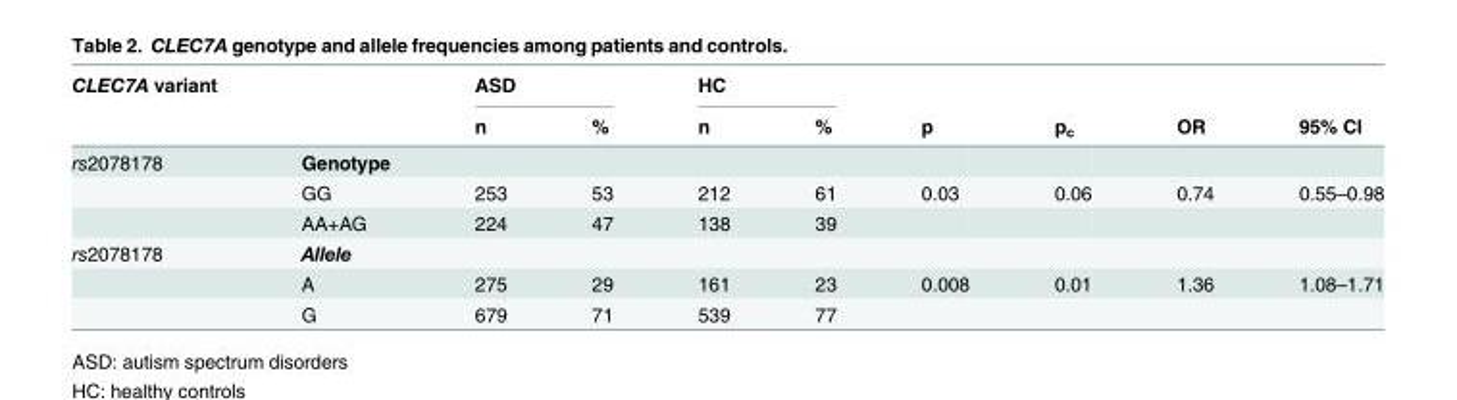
<table><thead><tr><td rowspan="2">CLEC7A variant</td><td rowspan="2"></td><td colspan="2">ASD</td><td colspan="2">HC</td><td rowspan="2">p</td><td rowspan="2">p<sub>c</sub></td><td rowspan="2">OR</td><td rowspan="2">95% CI</td></tr><tr><td>n</td><td>%</td><td>n</td><td>%</td></tr></thead><tbody><tr><td rowspan="3">rs2078178</td><td>Genotype</td><td></td><td></td><td></td><td></td><td></td><td></td><td></td><td></td></tr><tr><td>GG</td><td>253</td><td>53</td><td>212</td><td>61</td><td>0.03</td><td>0.06</td><td>0.74</td><td>0.55–0.98</td></tr><tr><td>AA+AG</td><td>224</td><td>47</td><td>138</td><td>39</td><td></td><td></td><td></td><td></td></tr><tr><td rowspan="3">rs2078178</td><td>Allele</td><td></td><td></td><td></td><td></td><td></td><td></td><td></td><td></td></tr><tr><td>A</td><td>275</td><td>29</td><td>161</td><td>23</td><td>0.008</td><td>0.01</td><td>1.36</td><td>1.08–1.71</td></tr><tr><td>G</td><td>679</td><td>71</td><td>539</td><td>77</td><td></td><td></td><td></td><td></td></tr></tbody></table>